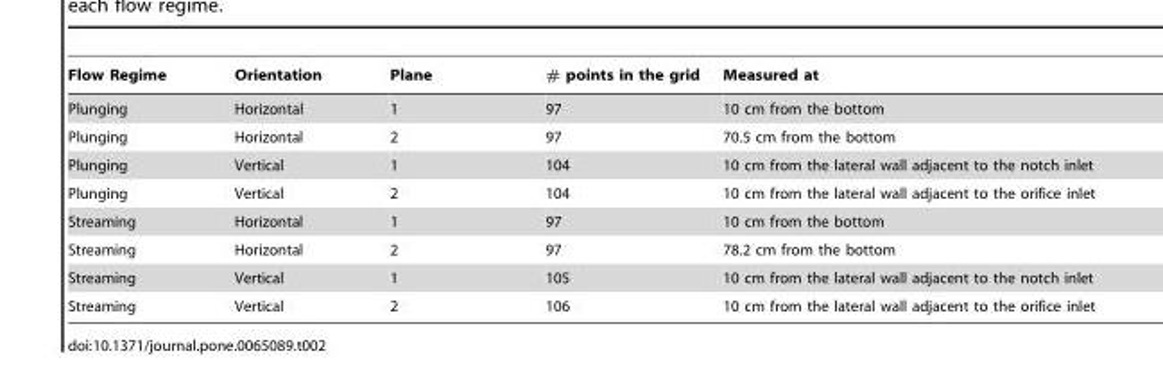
<table><thead><tr><td>Flow Regime</td><td>Orientation</td><td>Plane</td><td># points in the grid</td><td>Measured at</td></tr></thead><tbody><tr><td>Plunging</td><td>Horizontal</td><td>1</td><td>97</td><td>10 cm from the bottom</td></tr><tr><td>Plunging</td><td>Horizontal</td><td>2</td><td>97</td><td>70.5 cm from the bottom</td></tr><tr><td>Plunging</td><td>Vertical</td><td>1</td><td>104</td><td>10 cm from the lateral wall adjacent to the notch inlet</td></tr><tr><td>Plunging</td><td>Vertical</td><td>2</td><td>104</td><td>10 cm from the lateral wall adjacent to the orifice inlet</td></tr><tr><td>Streaming</td><td>Horizontal</td><td>1</td><td>97</td><td>10 cm from the bottom</td></tr><tr><td>Streaming</td><td>Horizontal</td><td>2</td><td>97</td><td>78.2 cm from the bottom</td></tr><tr><td>Streaming</td><td>Vertical</td><td>1</td><td>105</td><td>10 cm from the lateral wall adjacent to the notch inlet</td></tr><tr><td>Streaming</td><td>Vertical</td><td>2</td><td>106</td><td>10 cm from the lateral wall adjacent to the orifice inlet</td></tr></tbody></table>